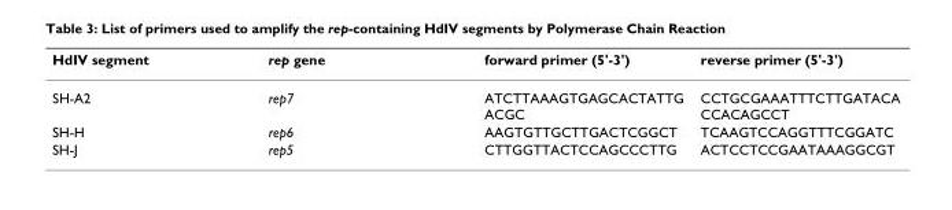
<table><thead><tr><td>HdIV segment</td><td>rep gene</td><td>forward primer (5&#x27;-3&#x27;)</td><td>reverse primer (5&#x27;-3&#x27;)</td></tr></thead><tbody><tr><td>SH-A2</td><td>rep7</td><td>ATCTTAAAGTGAGCACTATTG ACGC</td><td>CCTGCGAAATTTCTTGATACA CCACAGCCT</td></tr><tr><td>SH-H</td><td>rep6</td><td>AAGTGTTGCTTGACTCGGCT</td><td>TCAAGTCCAGGTTTCGGATC</td></tr><tr><td>SH-J</td><td>rep5</td><td>CTTGGTTACTCCAGCCCTTG</td><td>ACTCCTCCGAATAAAGGCGT</td></tr></tbody></table>